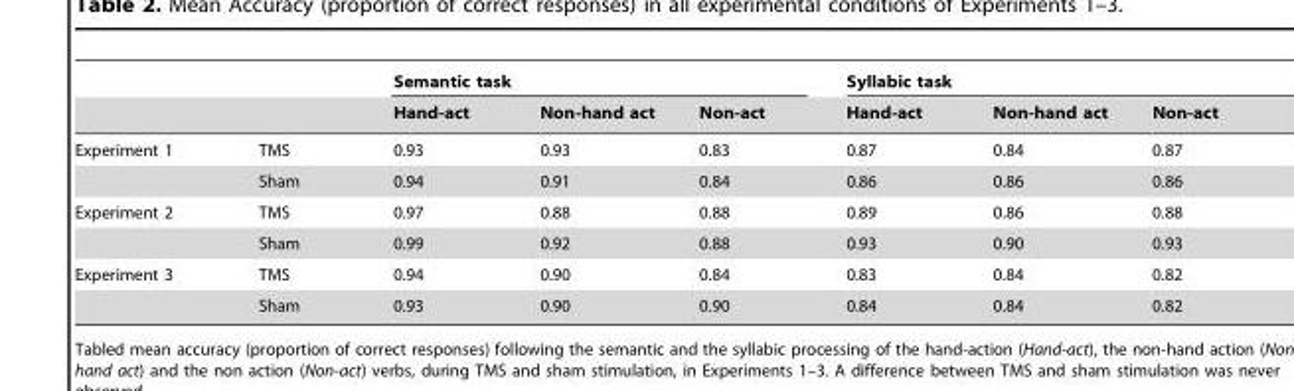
<table><thead><tr><td rowspan="2"></td><td rowspan="2"></td><td rowspan="2">Semantic task Hand-act</td><td rowspan="2">Non-hand act</td><td rowspan="2">Non-act</td><td rowspan="2">Syllabic task Hand-act</td><td rowspan="2">Non-hand act</td><td rowspan="2">Non-act</td></tr><tr></tr></thead><tbody><tr><td rowspan="2">Experiment 1</td><td>TMS</td><td>0.93</td><td>0.93</td><td>0.83</td><td>0.87</td><td>0.84</td><td>0.87</td></tr><tr><td>Sham</td><td>0.94</td><td>0.91</td><td>0.84</td><td>0.86</td><td>0.86</td><td>0.86</td></tr><tr><td rowspan="2">Experiment 2</td><td>TMS</td><td>0.97</td><td>0.88</td><td>0.88</td><td>0.89</td><td>0.86</td><td>0.88</td></tr><tr><td>Sham</td><td>0.99</td><td>0.92</td><td>0.88</td><td>0.93</td><td>0.90</td><td>0.93</td></tr><tr><td rowspan="2">Experiment 3</td><td>TMS</td><td>0.94</td><td>0.90</td><td>0.84</td><td>0.83</td><td>0.84</td><td>0.82</td></tr><tr><td>Sham</td><td>0.93</td><td>0.90</td><td>0.90</td><td>0.84</td><td>0.84</td><td>0.82</td></tr></tbody></table>